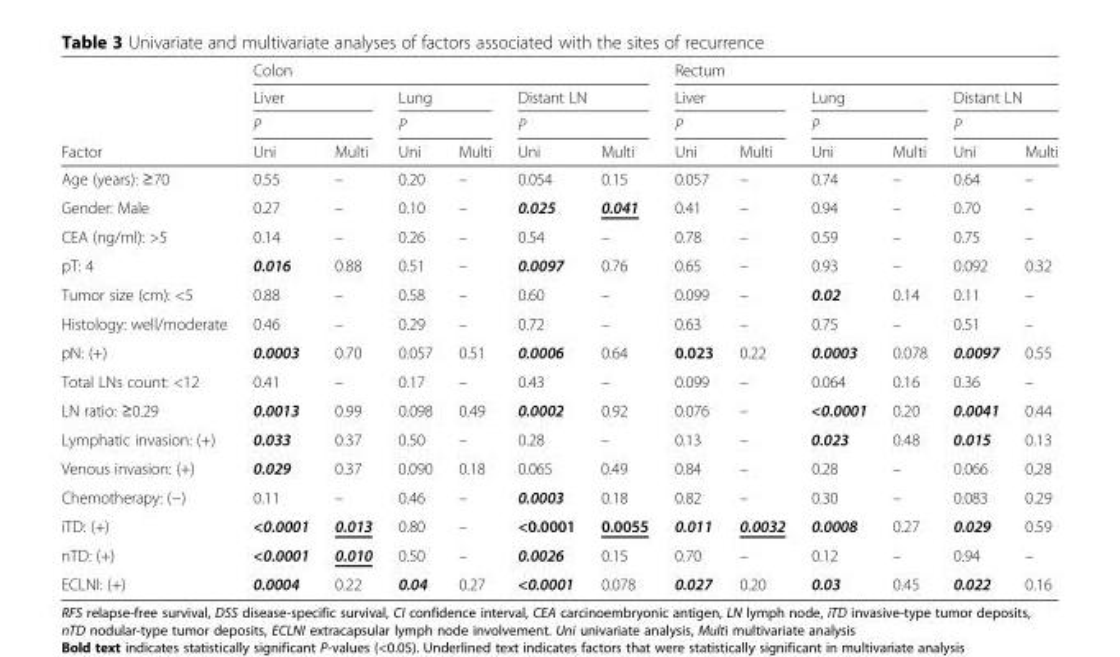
<table><thead><tr><td rowspan="4">Factor</td><td colspan="6">Colon</td><td colspan="6">Rectum</td></tr><tr><td rowspan="2" colspan="2">Liver P</td><td rowspan="2" colspan="2">Lung P</td><td rowspan="2" colspan="2">Distant LN P</td><td rowspan="2" colspan="2">Liver P</td><td rowspan="2" colspan="2">Lung P</td><td rowspan="2" colspan="2">Distant LN P</td></tr><tr></tr><tr><td>Uni</td><td>Multi</td><td>Uni</td><td>Multi</td><td>Uni</td><td>Multi</td><td>Uni</td><td>Multi</td><td>Uni</td><td>Multi</td><td>Uni</td><td>Multi</td></tr></thead><tbody><tr><td>Age (years): ≥70</td><td>0.55</td><td>–</td><td>0.20</td><td>–</td><td>0.054</td><td>0.15</td><td>0.057</td><td>–</td><td>0.74</td><td>–</td><td>0.64</td><td>–</td></tr><tr><td>Gender: Male</td><td>0.27</td><td>–</td><td>0.10</td><td>–</td><td>0.025</td><td>0.041</td><td>0.41</td><td>–</td><td>0.94</td><td>–</td><td>0.70</td><td>–</td></tr><tr><td>CEA (ng/ml): &gt;5</td><td>0.14</td><td>–</td><td>0.26</td><td>–</td><td>0.54</td><td>–</td><td>0.78</td><td>–</td><td>0.59</td><td>–</td><td>0.75</td><td>–</td></tr><tr><td>pT: 4</td><td>0.016</td><td>0.88</td><td>0.51</td><td>–</td><td>0.0097</td><td>0.76</td><td>0.65</td><td>–</td><td>0.93</td><td>–</td><td>0.092</td><td>0.32</td></tr><tr><td>Tumor size (cm): &lt;5</td><td>0.88</td><td>–</td><td>0.58</td><td>–</td><td>0.60</td><td>–</td><td>0.099</td><td>–</td><td>0.02</td><td>0.14</td><td>0.11</td><td>–</td></tr><tr><td>Histology: well/moderate</td><td>0.46</td><td>–</td><td>0.29</td><td>–</td><td>0.72</td><td>–</td><td>0.63</td><td>–</td><td>0.75</td><td>–</td><td>0.51</td><td>–</td></tr><tr><td>pN: (+)</td><td>0.0003</td><td>0.70</td><td>0.057</td><td>0.51</td><td>0.0006</td><td>0.64</td><td>0.023</td><td>0.22</td><td>0.0003</td><td>0.078</td><td>0.0097</td><td>0.55</td></tr><tr><td>Total LNs count: &lt;12</td><td>0.41</td><td>–</td><td>0.17</td><td>–</td><td>0.43</td><td>–</td><td>0.099</td><td>–</td><td>0.064</td><td>0.16</td><td>0.36</td><td>–</td></tr><tr><td>LN ratio: ≥0.29</td><td>0.0013</td><td>0.99</td><td>0.098</td><td>0.49</td><td>0.0002</td><td>0.92</td><td>0.076</td><td>–</td><td>&lt;0.0001</td><td>0.20</td><td>0.0041</td><td>0.44</td></tr><tr><td>Lymphatic invasion: (+)</td><td>0.033</td><td>0.37</td><td>0.50</td><td>–</td><td>0.28</td><td>–</td><td>0.13</td><td>–</td><td>0.023</td><td>0.48</td><td>0.015</td><td>0.13</td></tr><tr><td>Venous invasion: (+)</td><td>0.029</td><td>0.37</td><td>0.090</td><td>0.18</td><td>0.065</td><td>0.49</td><td>0.84</td><td>–</td><td>0.28</td><td>–</td><td>0.066</td><td>0,28</td></tr><tr><td>Chemotherapy: (−)</td><td>0.11</td><td>–</td><td>0.46</td><td>–</td><td>0.0003</td><td>0.18</td><td>0.82</td><td>–</td><td>0.30</td><td>–</td><td>0.083</td><td>0.29</td></tr><tr><td>iTD: (+)</td><td>&lt;0.0001</td><td>0.013</td><td>0.80</td><td>–</td><td>&lt;0.0001</td><td>0.0055</td><td>0.011</td><td>0.0032</td><td>0.0008</td><td>0.27</td><td>0.029</td><td>0.59</td></tr><tr><td>nTD: (+)</td><td>&lt;0.0001</td><td>0.010</td><td>0.50</td><td>–</td><td>0.0026</td><td>0.15</td><td>0.70</td><td>–</td><td>0.12</td><td>–</td><td>0.94</td><td>–</td></tr><tr><td>ECLNI: (+)</td><td>0.0004</td><td>0.22</td><td>0.04</td><td>0.27</td><td>&lt;0.0001</td><td>0.078</td><td>0.027</td><td>0.20</td><td>0.03</td><td>0.45</td><td>0.022</td><td>0.16</td></tr></tbody></table>